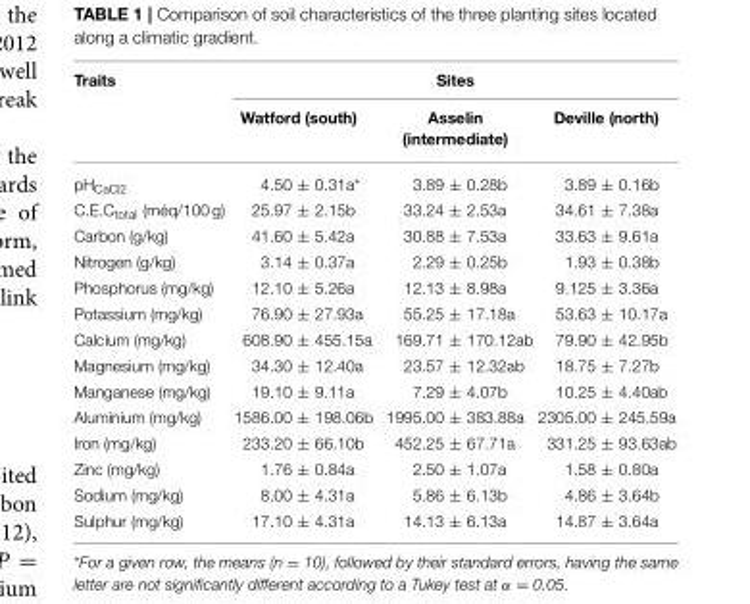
<table><thead><tr><td rowspan="2">Traits</td><td colspan="3">Sites</td></tr><tr><td>Watford (south)</td><td>Asselin (intermediate)</td><td>Deville (north)</td></tr></thead><tbody><tr><td>pH<sub>CaCl2</sub></td><td>4.50 ± 0.31a*</td><td>3.89 ± 0.28b</td><td>3.89 ± 0.16b</td></tr><tr><td>C.E.C<sub>total</sub> (méq/100 g)</td><td>25.97 ± 2.15b</td><td>33.24 ± 2.53a</td><td>34.61 ± 7.38a</td></tr><tr><td>Carbon (g/kg)</td><td>41.60 ± 5.42a</td><td>30.88 ± 7.53a</td><td>33.63 ± 9.61a</td></tr><tr><td>Nitrogen (g/kg)</td><td>3.14 ± 0.37a</td><td>2.29 ± 0.25b</td><td>1.93 ± 0.38b</td></tr><tr><td>Phosphorus (mg/kg)</td><td>12.10 ± 5.26a</td><td>12.13 ± 8.98a</td><td>9.125 ± 3.36a</td></tr><tr><td>Potassium (mg/kg)</td><td>76.90 ± 27.93a</td><td>55.25 ± 17.18a</td><td>53.63 ± 10.17a</td></tr><tr><td>Calcium (mg/kg)</td><td>608.90 ± 455.15a</td><td>169.71 ± 170.12ab</td><td>79.90 ± 42.95b</td></tr><tr><td>Magnesium (mg/kg)</td><td>34.30 ± 12.40a</td><td>23.57 ± 12.32ab</td><td>18.75 ± 7.27b</td></tr><tr><td>Manganese (mg/kg)</td><td>19.10 ± 9.11a</td><td>7.29 ± 4.07b</td><td>10.25 ± 4.40ab</td></tr><tr><td>Aluminium (mg/kg)</td><td>1586.00 ± 198.06b</td><td>1995.00 ± 383.88a</td><td>2305.00 ± 245.59a</td></tr><tr><td>Iron (mg/kg)</td><td>233.20 ± 66.10b</td><td>452.25 ± 67.71a</td><td>331.25 ± 93.63ab</td></tr><tr><td>Zinc (mg/kg)</td><td>1.76 ± 0.84a</td><td>2.50 ± 1.07a</td><td>1.58 ± 0.80a</td></tr><tr><td>Sodium (mg/kg)</td><td>8.00 ± 4.31a</td><td>5.86 ± 6.13b</td><td>4.86 ± 3.64b</td></tr><tr><td>Sulphur (mg/kg)</td><td>17.10 ± 4.31a</td><td>14.13 ± 6.13a</td><td>14.87 ± 3.64a</td></tr></tbody></table>